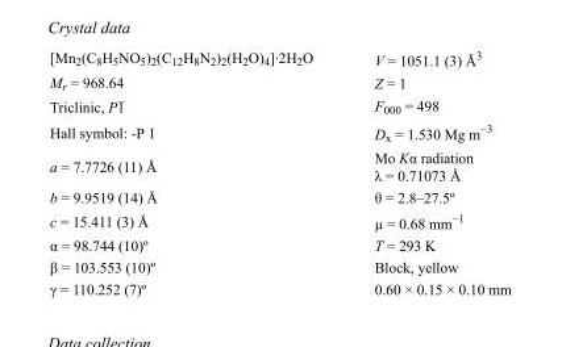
<table><tbody><tr><td>[Mn<sub>2</sub>(C<sub>8</sub>H<sub>5</sub>NO<sub>5</sub>)<sub>2</sub>(C<sub>12</sub>H<sub>8</sub>N<sub>2</sub>)<sub>2</sub>(H<sub>2</sub>O)<sub>4</sub>]·2H<sub>2</sub>O</td><td>V = 1051.1 (3) Å<sup>3</sup></td></tr><tr><td>M<sub>r</sub> = 968.64</td><td>Z = 1</td></tr><tr><td>Triclinic, P1</td><td>F000 = 498</td></tr><tr><td>Hall symbol: -P 1</td><td>D<sub>x</sub> = 1.530 Mg m<sup>−3</sup></td></tr><tr><td>a = 7.7726 (11) Å</td><td>Mo Kα radiation λ = 0.71073 Å</td></tr><tr><td>b = 9.9519 (14) Å</td><td>θ = 2.8–27.5º</td></tr><tr><td>c = 15.411 (3) Å</td><td>µ = 0.68 mm<sup>−1</sup></td></tr><tr><td>α = 98.744 (10)º</td><td>T = 293 K</td></tr><tr><td>β = 103.553 (10)º</td><td>Block, yellow</td></tr><tr><td>γ = 110.252 (7)º</td><td>0.60 × 0.15 × 0.10 mm</td></tr></tbody></table>